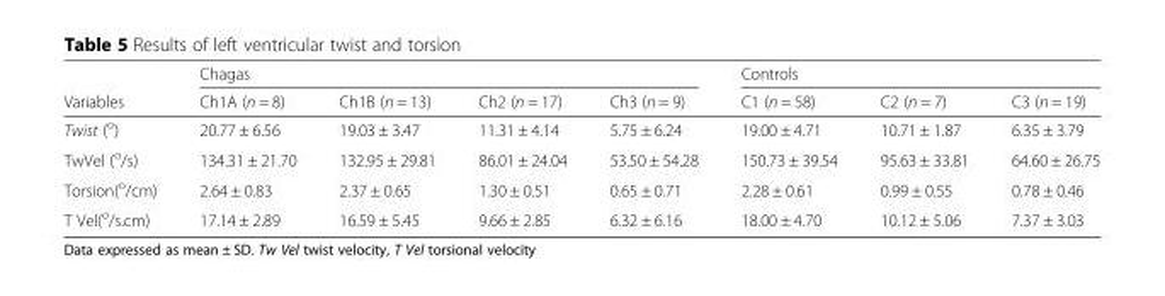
<table><thead><tr><td rowspan="2">Variables</td><td colspan="4">Chagas</td><td colspan="3">Controls</td></tr><tr><td>Ch1A (n = 8)</td><td>Ch1B (n = 13)</td><td>Ch2 (n = 17)</td><td>Ch3 (n = 9)</td><td>C1 (n = 58)</td><td>C2 (n = 7)</td><td>C3 (n = 19)</td></tr></thead><tbody><tr><td>Twist (<sup>o</sup>)</td><td>20.77 ± 6.56</td><td>19.03 ± 3.47</td><td>11.31 ± 4.14</td><td>5.75 ± 6.24</td><td>19.00 ± 4.71</td><td>10.71 ± 1.87</td><td>6.35 ± 3.79</td></tr><tr><td>TwVel (<sup>o</sup>/s)</td><td>134.31 ± 21.70</td><td>132.95 ± 29.81</td><td>86.01 ± 24.04</td><td>53.50 ± 54.28</td><td>150.73 ± 39.54</td><td>95.63 ± 33.81</td><td>64.60 ± 26.75</td></tr><tr><td>Torsion(<sup>o</sup>/cm)</td><td>2.64 ± 0.83</td><td>2.37 ± 0.65</td><td>1.30 ± 0.51</td><td>0.65 ± 0.71</td><td>2.28 ± 0.61</td><td>0.99 ± 0.55</td><td>0.78 ± 0.46</td></tr><tr><td>T Vel(<sup>o</sup>/s.cm)</td><td>17.14 ± 2.89</td><td>16.59 ± 5.45</td><td>9.66 ± 2.85</td><td>6.32 ± 6.16</td><td>18.00 ± 4.70</td><td>10.12 ± 5.06</td><td>7.37 ± 3.03</td></tr></tbody></table>